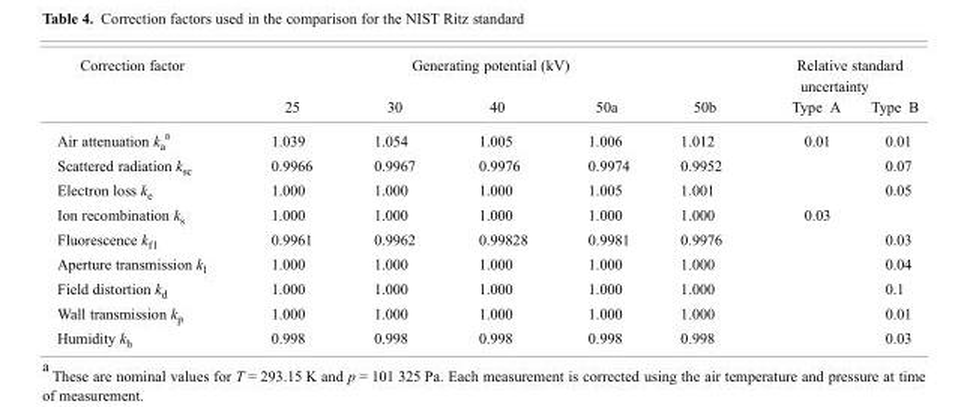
<table><thead><tr><td rowspan="2">Correction factor</td><td colspan="5">Generating potential (kV)</td><td colspan="2">Relative standard uncertainty</td></tr><tr><td>25</td><td>30</td><td>40</td><td>50a</td><td>50b</td><td>Type A</td><td>Type B</td></tr></thead><tbody><tr><td>Air attenuation k<sub>a</sub> <sup>a</sup></td><td>1.039</td><td>1.054</td><td>1.005</td><td>1.006</td><td>1.012</td><td>0.01</td><td>0.01</td></tr><tr><td>Scattered radiation k<sub>sc</sub></td><td>0.9966</td><td>0.9967</td><td>0.9976</td><td>0.9974</td><td>0.9952</td><td></td><td>0.07</td></tr><tr><td>Electron loss k<sub>e</sub></td><td>1.000</td><td>1.000</td><td>1.000</td><td>1.005</td><td>1.001</td><td></td><td>0.05</td></tr><tr><td>Ion recombination k<sub>s</sub></td><td>1.000</td><td>1.000</td><td>1.000</td><td>1.000</td><td>1.000</td><td>0.03</td><td></td></tr><tr><td>Fluorescence k<sub>f l</sub></td><td>0.9961</td><td>0.9962</td><td>0.99828</td><td>0.9981</td><td>0.9976</td><td></td><td>0.03</td></tr><tr><td>Aperture transmission k<sub>l</sub></td><td>1.000</td><td>1.000</td><td>1.000</td><td>1.000</td><td>1.000</td><td></td><td>0.04</td></tr><tr><td>Field distortion k<sub>d</sub></td><td>1.000</td><td>1.000</td><td>1.000</td><td>1.000</td><td>1.000</td><td></td><td>0.1</td></tr><tr><td>Wall transmission k<sub>p</sub></td><td>1.000</td><td>1.000</td><td>1.000</td><td>1.000</td><td>1.000</td><td></td><td>0.01</td></tr><tr><td>Humidity k<sub>h</sub></td><td>0.998</td><td>0.998</td><td>0.998</td><td>0.998</td><td>0.998</td><td></td><td>0.03</td></tr></tbody></table>